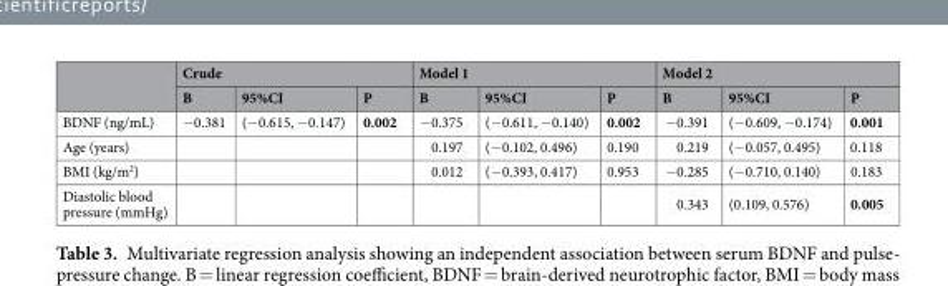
<table><thead><tr><td rowspan="2"></td><td colspan="3">Crude</td><td colspan="3">Model 1</td><td colspan="3">Model 2</td></tr><tr><td>B</td><td>95%CI</td><td>P</td><td>B</td><td>95%CI</td><td>P</td><td>B</td><td>95%CI</td><td>P</td></tr></thead><tbody><tr><td>BDNF (ng/mL)</td><td>−0.381</td><td>(−0.615, −0.147)</td><td>0.002</td><td>−0.375</td><td>(−0.611, −0.140)</td><td>0.002</td><td>−0.391</td><td>(−0.609, −0.174)</td><td>0.001</td></tr><tr><td>Age (years)</td><td></td><td></td><td></td><td>0.197</td><td>(−0.102, 0.496)</td><td>0.190</td><td>0.219</td><td>(−0.057, 0.495)</td><td>0.118</td></tr><tr><td>BMI (kg/m<sup>2</sup>)</td><td></td><td></td><td></td><td>0.012</td><td>(−0.393, 0.417)</td><td>0.953</td><td>−0.285</td><td>(−0.710, 0.140)</td><td>0.183</td></tr><tr><td>Diastolic blood pressure (mmHg)</td><td></td><td></td><td></td><td></td><td></td><td></td><td>0.343</td><td>(0.109, 0.576)</td><td>0.005</td></tr></tbody></table>